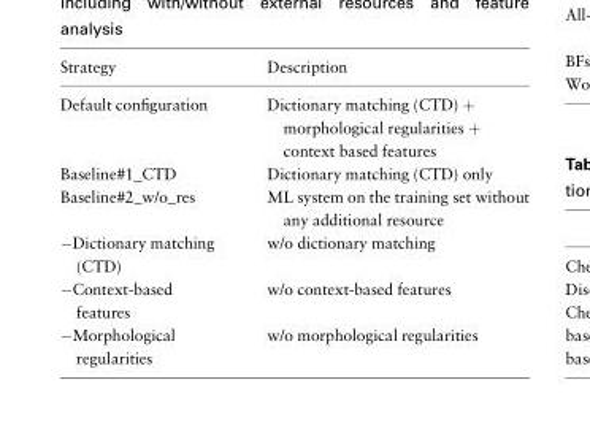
<table><thead><tr><td>Strategy</td><td>Description</td></tr></thead><tbody><tr><td>Default configuration</td><td>Dictionary matching (CTD) + morphological regularities + context based features</td></tr><tr><td>Baseline#1_CTD</td><td>Dictionary matching (CTD) only</td></tr><tr><td>Baseline#2_w/o_res</td><td>ML system on the training set without any additional resource</td></tr><tr><td>−Dictionary matching (CTD)</td><td>w/o dictionary matching</td></tr><tr><td>−Context-based features</td><td>w/o context-based features</td></tr><tr><td>−Morphological regularities</td><td>w/o morphological regularities</td></tr></tbody></table>